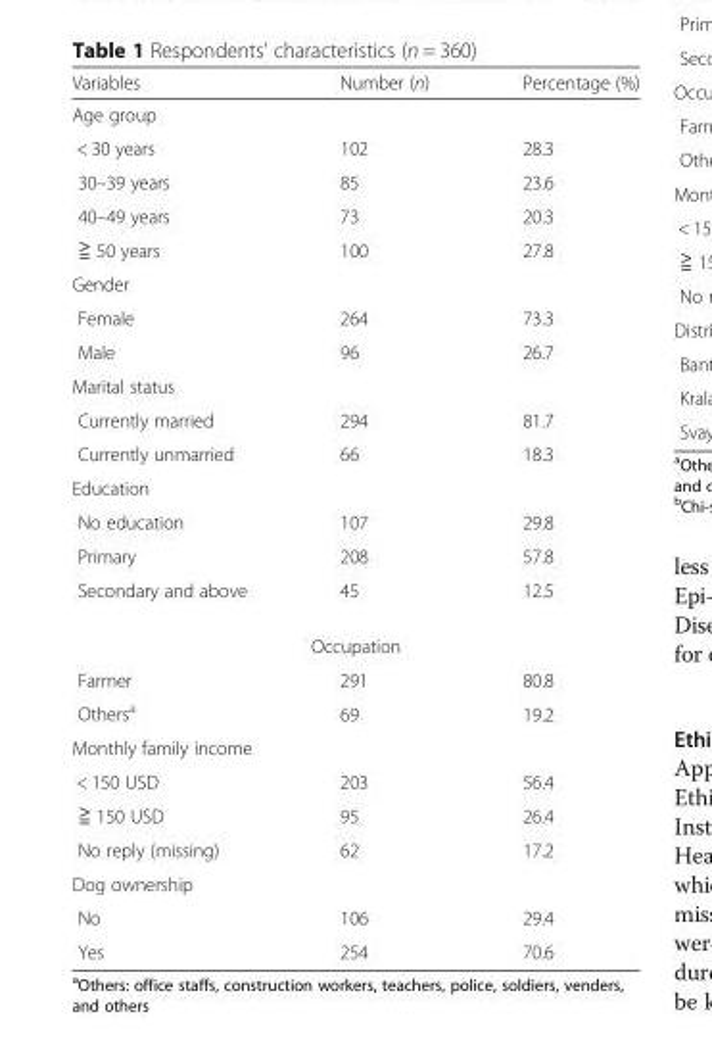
<table><thead><tr><td>Variables</td><td>Number (n)</td><td>Percentage (%)</td></tr></thead><tbody><tr><td colspan="3">Age group</td></tr><tr><td>&lt; 30 years</td><td>102</td><td>28.3</td></tr><tr><td>30–39 years</td><td>85</td><td>23.6</td></tr><tr><td>40–49 years</td><td>73</td><td>20.3</td></tr><tr><td>≧ 50 years</td><td>100</td><td>27.8</td></tr><tr><td colspan="3">Gender</td></tr><tr><td>Female</td><td>264</td><td>73.3</td></tr><tr><td>Male</td><td>96</td><td>26.7</td></tr><tr><td colspan="3">Marital status</td></tr><tr><td>Currently married</td><td>294</td><td>81.7</td></tr><tr><td>Currently unmarried</td><td>66</td><td>18.3</td></tr><tr><td colspan="3">Education</td></tr><tr><td>No education</td><td>107</td><td>29.8</td></tr><tr><td>Primary</td><td>208</td><td>57.8</td></tr><tr><td>Secondary and above</td><td>45</td><td>12.5</td></tr><tr><td colspan="3">Occupation</td></tr><tr><td>Farmer</td><td>291</td><td>80.8</td></tr><tr><td>Others<sup>a</sup></td><td>69</td><td>19.2</td></tr><tr><td colspan="3">Monthly family income</td></tr><tr><td>&lt; 150 USD</td><td>203</td><td>56.4</td></tr><tr><td>≧ 150 USD</td><td>95</td><td>26.4</td></tr><tr><td>No reply (missing)</td><td>62</td><td>17.2</td></tr><tr><td colspan="3">Dog ownership</td></tr><tr><td>No</td><td>106</td><td>29.4</td></tr><tr><td>Yes</td><td>254</td><td>70.6</td></tr></tbody></table>